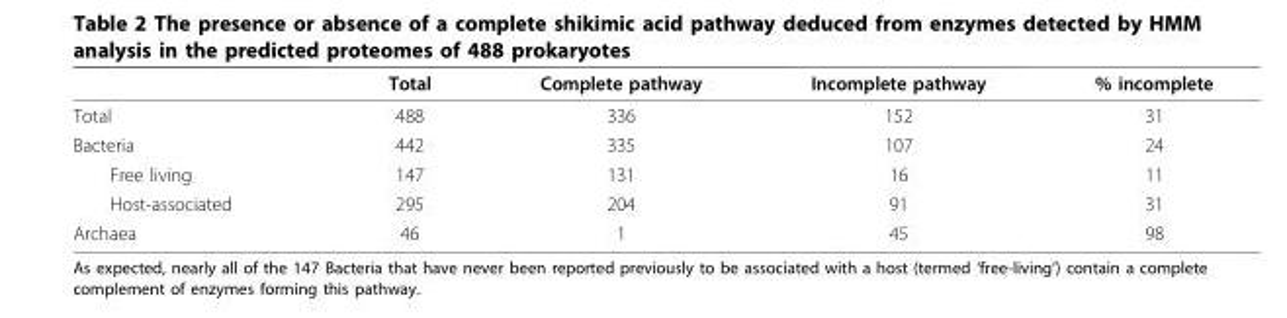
<table><thead><tr><td></td><td>Total</td><td>Complete pathway</td><td>Incomplete pathway</td><td>% incomplete</td></tr></thead><tbody><tr><td>Total</td><td>488</td><td>336</td><td>152</td><td>31</td></tr><tr><td>Bacteria</td><td>442</td><td>335</td><td>107</td><td>24</td></tr><tr><td>Free living</td><td>147</td><td>131</td><td>16</td><td>11</td></tr><tr><td>Host-associated</td><td>295</td><td>204</td><td>91</td><td>31</td></tr><tr><td>Archaea</td><td>46</td><td>1</td><td>45</td><td>98</td></tr></tbody></table>